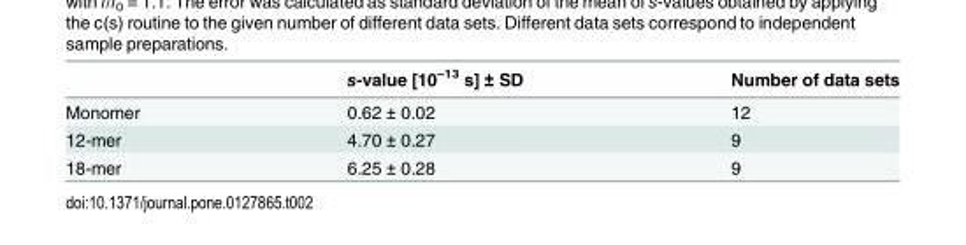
<table><thead><tr><td></td><td>s-value [10<sup>–13</sup> s] ± SD</td><td>Number of data sets</td></tr></thead><tbody><tr><td>Monomer</td><td>0.62 ± 0.02</td><td>12</td></tr><tr><td>12-mer</td><td>4.70 ± 0.27</td><td>9</td></tr><tr><td>18-mer</td><td>6.25 ± 0.28</td><td>9</td></tr></tbody></table>